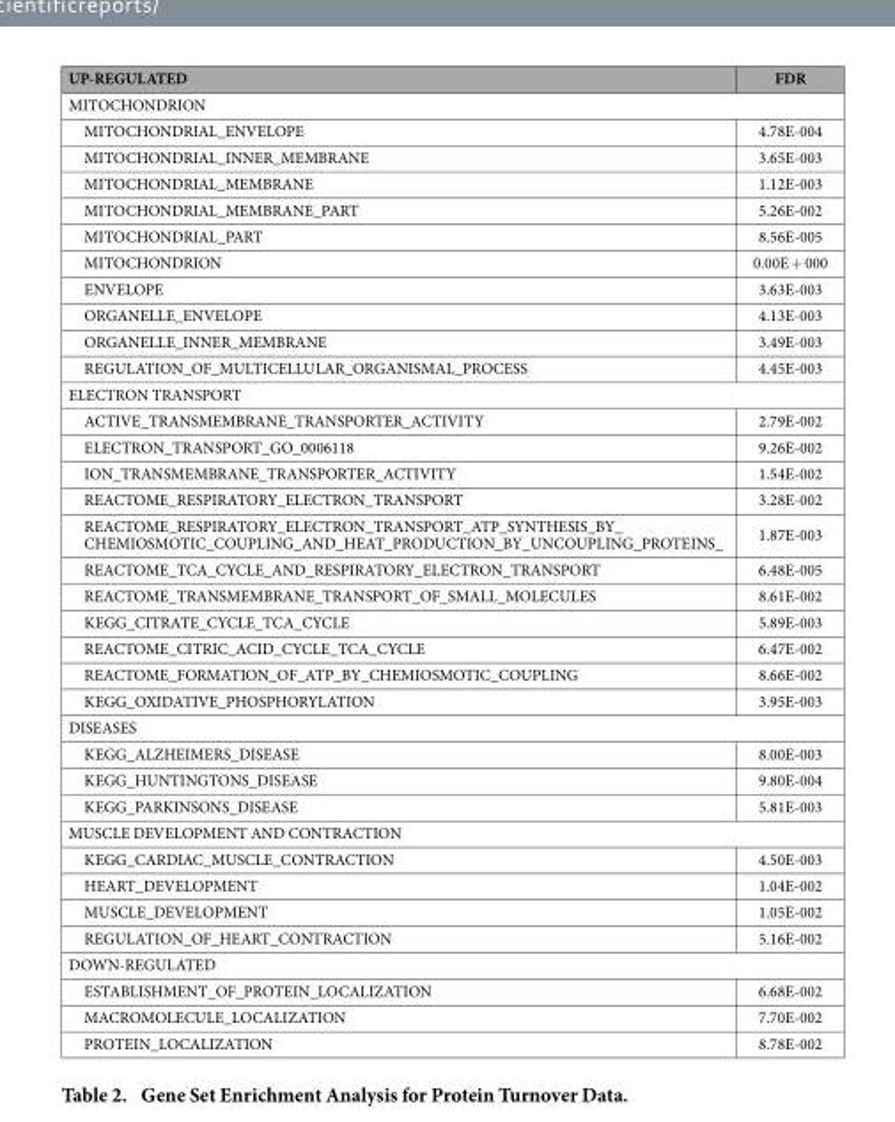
<table><thead><tr><td>UP-REGULATED</td><td>FDR</td></tr></thead><tbody><tr><td colspan="2">MITOCHONDRION</td></tr><tr><td>MITOCHONDRIAL_ENVELOPE</td><td>4.78E-004</td></tr><tr><td>MITOCHONDRIAL_INNER_MEMBRANE</td><td>3.65E-003</td></tr><tr><td>MITOCHONDRIAL_MEMBRANE</td><td>1.12E-003</td></tr><tr><td>MITOCHONDRIAL_MEMBRANE_PART</td><td>5.26E-002</td></tr><tr><td>MITOCHONDRIAL_PART</td><td>8.56E-005</td></tr><tr><td>MITOCHONDRION</td><td>0.00E + 000</td></tr><tr><td>ENVELOPE</td><td>3.63E-003</td></tr><tr><td>ORGANELLE_ENVELOPE</td><td>4.13E-003</td></tr><tr><td>ORGANELLE_INNER_MEMBRANE</td><td>3.49E-003</td></tr><tr><td>REGULATION_OF_MULTICELLULAR_ORGANISMAL_PROCESS</td><td>4.45E-003</td></tr><tr><td colspan="2">ELECTRON TRANSPORT</td></tr><tr><td>ACTIVE_TRANSMEMBRANE_TRANSPORTER_ACTIVITY</td><td>2.79E-002</td></tr><tr><td>ELECTRON_TRANSPORT_GO_0006118</td><td>9.26E-002</td></tr><tr><td>ION_TRANSMEMBRANE_TRANSPORTER_ACTIVITY</td><td>1.54E-002</td></tr><tr><td>REACTOME_RESPIRATORY_ELECTRON_TRANSPORT</td><td>3.28E-002</td></tr><tr><td>REACTOME_RESPIRATORY_ELECTRON_TRANSPORT_ATP_SYNTHESIS_BY_ CHEMIOSMOTIC_COUPLING_AND_HEAT_PRODUCTION_BY_UNCOUPLING_PROTEINS_</td><td>1.87E-003</td></tr><tr><td>REACTOME_TCA_CYCLE_AND_RESPIRATORY_ELECTRON_TRANSPORT</td><td>6.48E-005</td></tr><tr><td>REACTOME_TRANSMEMBRANE_TRANSPORT_OF_SMALL_MOLECULES</td><td>8.61E-002</td></tr><tr><td>KEGG_CITRATE_CYCLE_TCA_CYCLE</td><td>5.89E-003</td></tr><tr><td>REACTOME_CITRIC_ACID_CYCLE_TCA_CYCLE</td><td>6.47E-002</td></tr><tr><td>REACTOME_FORMATION_OF_ATP_BY_CHEMIOSMOTIC_COUPLING</td><td>8.66E-002</td></tr><tr><td>KEGG_OXIDATIVE_PHOSPHORYLATION</td><td>3.95E-003</td></tr><tr><td colspan="2">DISEASES</td></tr><tr><td>KEGG_ALZHEIMERS_DISEASE</td><td>8.00E-003</td></tr><tr><td>KEGG_HUNTINGTONS_DISEASE</td><td>9.80E-004</td></tr><tr><td>KEGG_PARKINSONS_DISEASE</td><td>5.81E-003</td></tr><tr><td colspan="2">MUSCLE DEVELOPMENT AND CONTRACTION</td></tr><tr><td>KEGG_CARDIAC_MUSCLE_CONTRACTION</td><td>4.50E-003</td></tr><tr><td>HEART_DEVELOPMENT</td><td>1.04E-002</td></tr><tr><td>MUSCLE_DEVELOPMENT</td><td>1.05E-002</td></tr><tr><td>REGULATION_OF_HEART_CONTRACTION</td><td>5.16E-002</td></tr><tr><td colspan="2">DOWN-REGULATED</td></tr><tr><td>ESTABLISHMENT_OF_PROTEIN_LOCALIZATION</td><td>6.68E-002</td></tr><tr><td>MACROMOLECULE_LOCALIZATION</td><td>7.70E-002</td></tr><tr><td>PROTEIN_LOCALIZATION</td><td>8.78E-002</td></tr></tbody></table>